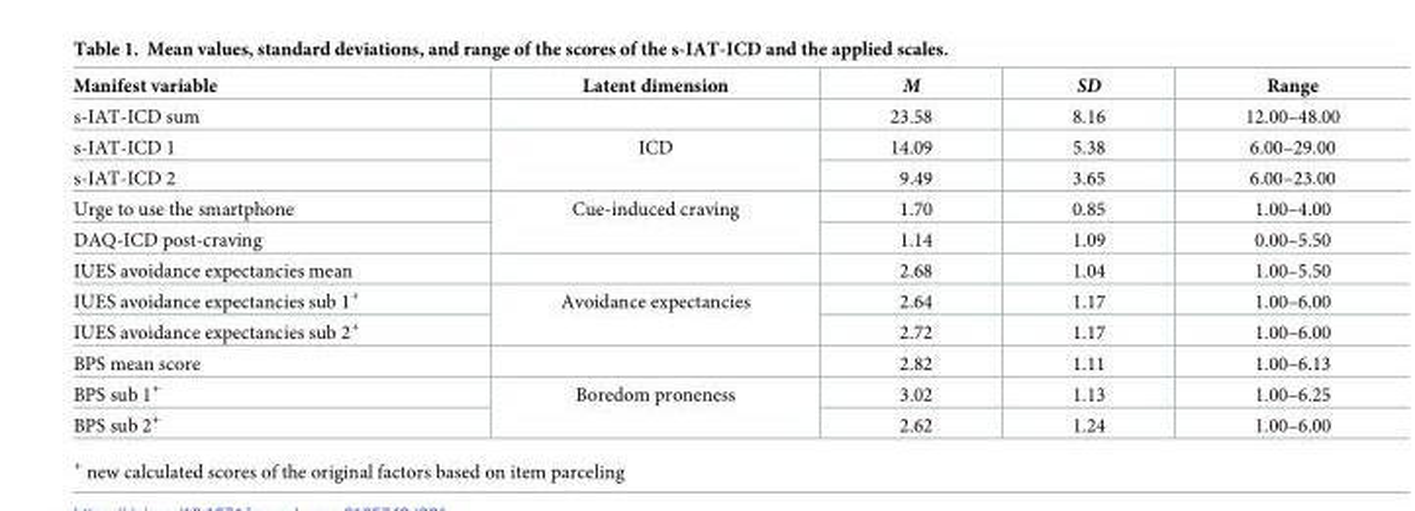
<table><thead><tr><td>Manifest variable</td><td>Latent dimension</td><td>M</td><td>SD</td><td>Range</td></tr></thead><tbody><tr><td>s-IAT-ICD sum</td><td></td><td>23.58</td><td>8.16</td><td>12.00–48.00</td></tr><tr><td>s-IAT-ICD 1</td><td rowspan="2">ICD</td><td>14.09</td><td>5.38</td><td>6.00–29.00</td></tr><tr><td>s-IAT-ICD 2</td><td>9.49</td><td>3.65</td><td>6.00–23.00</td></tr><tr><td>Urge to use the smartphone</td><td rowspan="2">Cue-induced craving</td><td>1.70</td><td>0.85</td><td>1.00–4.00</td></tr><tr><td>DAQ-ICD post-craving</td><td>1.14</td><td>1.09</td><td>0.00–5.50</td></tr><tr><td>IUES avoidance expectancies mean</td><td></td><td>2.68</td><td>1.04</td><td>1.00–5.50</td></tr><tr><td>IUES avoidance expectancies sub 1<sup>+</sup></td><td rowspan="2">Avoidance expectancies</td><td>2.64</td><td>1.17</td><td>1.00–6.00</td></tr><tr><td>IUES avoidance expectancies sub 2<sup>+</sup></td><td>2.72</td><td>1.17</td><td>1.00–6.00</td></tr><tr><td>BPS mean score</td><td></td><td>2.82</td><td>1.11</td><td>1.00–6.13</td></tr><tr><td>BPS sub 1<sup>+</sup></td><td rowspan="2">Boredom proneness</td><td>3.02</td><td>1.13</td><td>1.00–6.25</td></tr><tr><td>BPS sub 2<sup>+</sup></td><td>2.62</td><td>1.24</td><td>1.00–6.00</td></tr></tbody></table>